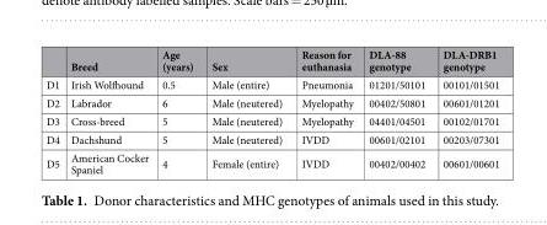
<table><thead><tr><td></td><td>Breed</td><td>Age (years)</td><td>Sex</td><td>Reason for euthanasia</td><td>DLA-88 genotype</td><td>DLA-DRB1 genotype</td></tr></thead><tbody><tr><td>D1</td><td>Irish Wolfhound</td><td>0.5</td><td>Male (entire)</td><td>Pneumonia</td><td>01201/50101</td><td>00101/01501</td></tr><tr><td>D2</td><td>Labrador</td><td>6</td><td>Male (neutered)</td><td>Myelopathy</td><td>00402/50801</td><td>00601/01201</td></tr><tr><td>D3</td><td>Cross-breed</td><td>5</td><td>Male (neutered)</td><td>Myelopathy</td><td>04401/04501</td><td>00102/01701</td></tr><tr><td>D4</td><td>Dachshund</td><td>5</td><td>Male (neutered)</td><td>IVDD</td><td>00601/02101</td><td>00203/07301</td></tr><tr><td>D5</td><td>American Cocker Spaniel</td><td>4</td><td>Female (entire)</td><td>IVDD</td><td>00402/00402</td><td>00601/00601</td></tr></tbody></table>